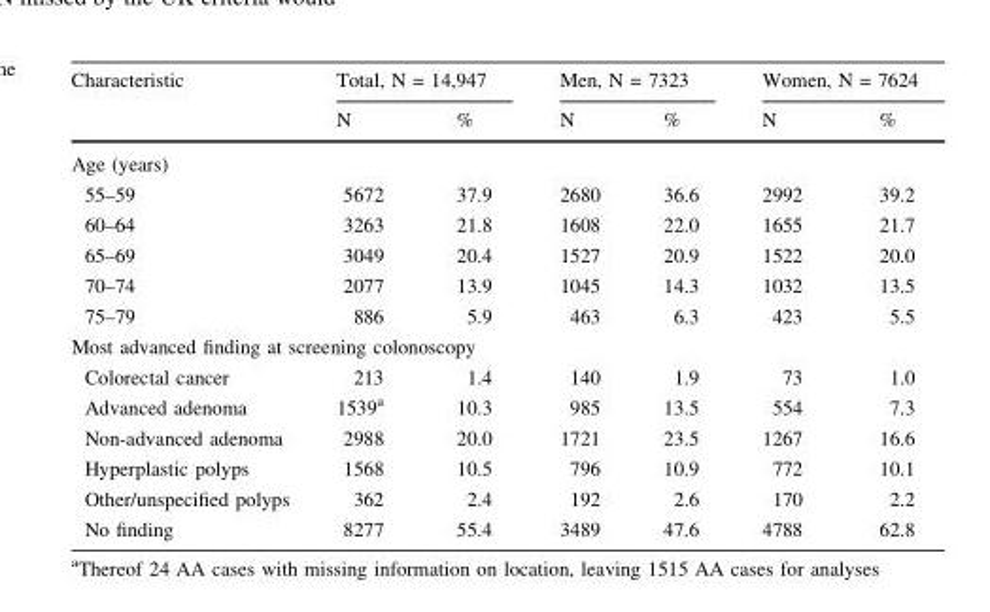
<table><thead><tr><td rowspan="2">Characteristic</td><td colspan="2">Total, N = 14,947</td><td colspan="2">Men, N = 7323</td><td colspan="2">Women, N = 7624</td></tr><tr><td>N</td><td>%</td><td>N</td><td>%</td><td>N</td><td>%</td></tr></thead><tbody><tr><td colspan="7">Age (years)</td></tr><tr><td>55–59</td><td>5672</td><td>37.9</td><td>2680</td><td>36.6</td><td>2992</td><td>39.2</td></tr><tr><td>60–64</td><td>3263</td><td>21.8</td><td>1608</td><td>22.0</td><td>1655</td><td>21.7</td></tr><tr><td>65–69</td><td>3049</td><td>20.4</td><td>1527</td><td>20.9</td><td>1522</td><td>20.0</td></tr><tr><td>70–74</td><td>2077</td><td>13.9</td><td>1045</td><td>14.3</td><td>1032</td><td>13.5</td></tr><tr><td>75–79</td><td>886</td><td>5.9</td><td>463</td><td>6.3</td><td>423</td><td>5.5</td></tr><tr><td colspan="7">Most advanced finding at screening colonoscopy</td></tr><tr><td>Colorectal cancer</td><td>213</td><td>1.4</td><td>140</td><td>1.9</td><td>73</td><td>1.0</td></tr><tr><td>Advanced adenoma</td><td>1539<sup>a</sup></td><td>10.3</td><td>985</td><td>13.5</td><td>554</td><td>7.3</td></tr><tr><td>Non-advanced adenoma</td><td>2988</td><td>20.0</td><td>1721</td><td>23.5</td><td>1267</td><td>16.6</td></tr><tr><td>Hyperplastic polyps</td><td>1568</td><td>10.5</td><td>796</td><td>10.9</td><td>772</td><td>10.1</td></tr><tr><td>Other/unspecified polyps</td><td>362</td><td>2.4</td><td>192</td><td>2.6</td><td>170</td><td>2.2</td></tr><tr><td>No finding</td><td>8277</td><td>55.4</td><td>3489</td><td>47.6</td><td>4788</td><td>62.8</td></tr></tbody></table>